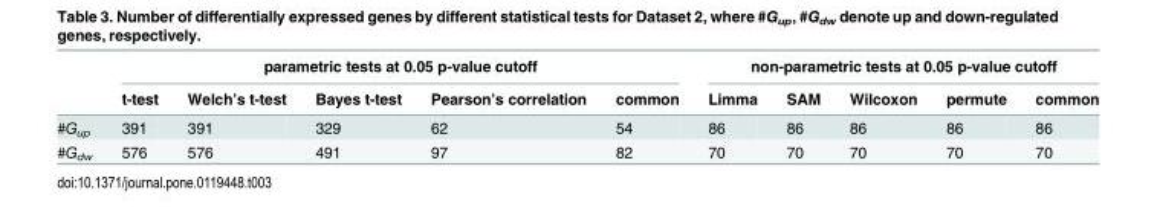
<table><thead><tr><td rowspan="2"></td><td colspan="5">parametric tests at 0.05 p-value cutoff</td><td colspan="5">non-parametric tests at 0.05 p-value cutoff</td></tr><tr><td>t-test</td><td>Welch’s t-test</td><td>Bayes t-test</td><td>Pearson’s correlation</td><td>common</td><td>Limma</td><td>SAM</td><td>Wilcoxon</td><td>permute</td><td>common</td></tr></thead><tbody><tr><td>#G<sub>up</sub></td><td>391</td><td>391</td><td>329</td><td>62</td><td>54</td><td>86</td><td>86</td><td>86</td><td>86</td><td>86</td></tr><tr><td>#G<sub>dw</sub></td><td>576</td><td>576</td><td>491</td><td>97</td><td>82</td><td>70</td><td>70</td><td>70</td><td>70</td><td>70</td></tr></tbody></table>